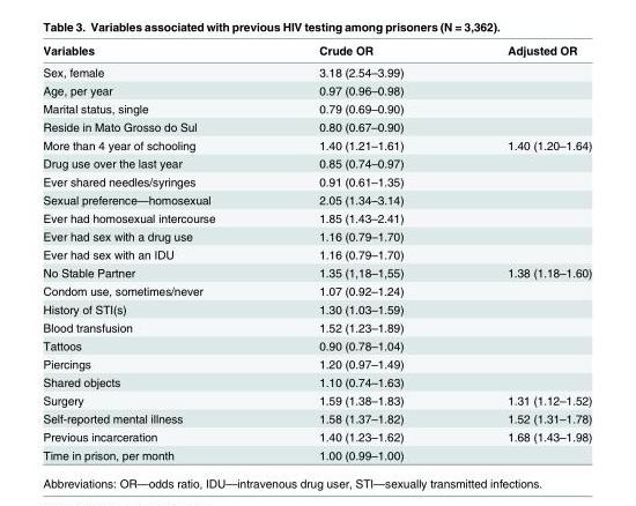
<table><thead><tr><td>Variables</td><td>Crude OR</td><td>Adjusted OR</td></tr></thead><tbody><tr><td>Sex, female</td><td>3.18 (2.54–3.99)</td><td></td></tr><tr><td>Age, per year</td><td>0.97 (0.96–0.98)</td><td></td></tr><tr><td>Marital status, single</td><td>0.79 (0.69–0.90)</td><td></td></tr><tr><td>Reside in Mato Grosso do Sul</td><td>0.80 (0.67–0.90)</td><td></td></tr><tr><td>More than 4 year of schooling</td><td>1.40 (1.21–1.61)</td><td>1.40 (1.20–1.64)</td></tr><tr><td>Drug use over the last year</td><td>0.85 (0.74–0.97)</td><td></td></tr><tr><td>Ever shared needles/syringes</td><td>0.91 (0.61–1.35)</td><td></td></tr><tr><td>Sexual preference—homosexual</td><td>2.05 (1.34–3.14)</td><td></td></tr><tr><td>Ever had homosexual intercourse</td><td>1.85 (1.43–2.41)</td><td></td></tr><tr><td>Ever had sex with a drug use</td><td>1.16 (0.79–1.70)</td><td></td></tr><tr><td>Ever had sex with an IDU</td><td>1.16 (0.79–1.70)</td><td></td></tr><tr><td>No Stable Partner</td><td>1.35 (1,18–1,55)</td><td>1.38 (1.18–1.60)</td></tr><tr><td>Condom use, sometimes/never</td><td>1.07 (0.92–1.24)</td><td></td></tr><tr><td>History of STI(s)</td><td>1.30 (1.03–1.59)</td><td></td></tr><tr><td>Blood transfusion</td><td>1.52 (1.23–1.89)</td><td></td></tr><tr><td>Tattoos</td><td>0.90 (0.78–1.04)</td><td></td></tr><tr><td>Piercings</td><td>1.20 (0.97–1.49)</td><td></td></tr><tr><td>Shared objects</td><td>1.10 (0.74–1.63)</td><td></td></tr><tr><td>Surgery</td><td>1.59 (1.38–1.83)</td><td>1.31 (1.12–1.52)</td></tr><tr><td>Self-reported mental illness</td><td>1.58 (1.37–1.82)</td><td>1.52 (1.31–1.78)</td></tr><tr><td>Previous incarceration</td><td>1.40 (1.23–1.62)</td><td>1.68 (1.43–1.98)</td></tr><tr><td>Time in prison, per month</td><td>1.00 (0.99–1.00)</td><td></td></tr></tbody></table>